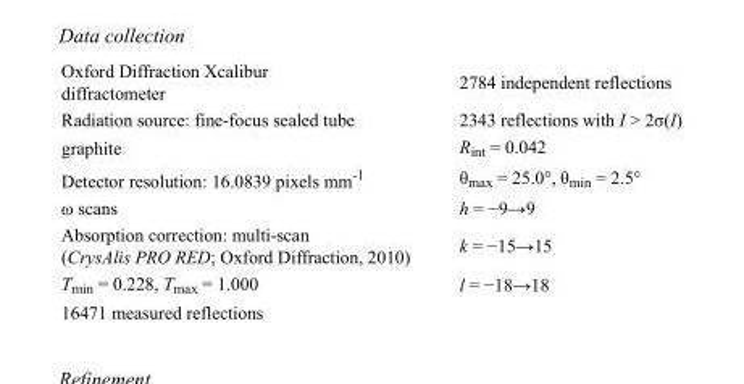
<table><tbody><tr><td>Oxford Diffraction Xcalibur diffractometer</td><td>2784 independent reflections</td></tr><tr><td>Radiation source: fine-focus sealed tube</td><td>2343 reflections with I &gt; 2σ(I)</td></tr><tr><td>graphite</td><td>R<sub>int</sub> = 0.042</td></tr><tr><td>Detector resolution: 16.0839 pixels mm<sup>-1</sup></td><td>θ<sub>max</sub> = 25.0°, θ<sub>min</sub> = 2.5°</td></tr><tr><td>ω scans</td><td>h = −9→9</td></tr><tr><td>Absorption correction: multi-scan (CrysAlis PRO RED; Oxford Diffraction, 2010)</td><td>k = −15→15</td></tr><tr><td>T<sub>min</sub> = 0.228, T<sub>max</sub> = 1.000</td><td>l = −18→18</td></tr><tr><td>16471 measured reflections</td><td></td></tr></tbody></table>